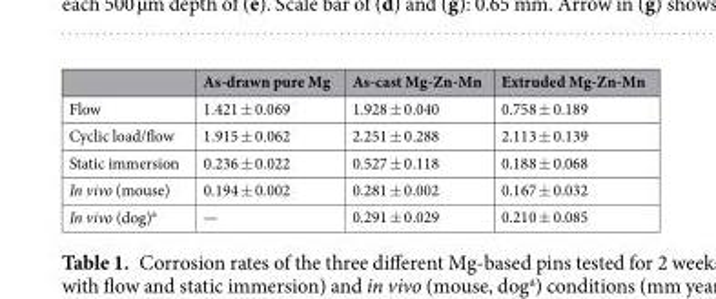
<table><thead><tr><td></td><td>As-drawn pure Mg</td><td>As-cast Mg-Zn-Mn</td><td>Extruded Mg-Zn-Mn</td></tr></thead><tbody><tr><td>Flow</td><td>1.421 ± 0.069</td><td>1.928 ± 0.040</td><td>0.758 ± 0.189</td></tr><tr><td>Cyclic load/flow</td><td>1.915 ± 0.062</td><td>2.251 ± 0.288</td><td>2.113 ± 0.139</td></tr><tr><td>Static immersion</td><td>0.236 ± 0.022</td><td>0.527 ± 0.118</td><td>0.188 ± 0.068</td></tr><tr><td>In vivo (mouse)</td><td>0.194 ± 0.002</td><td>0.281 ± 0.002</td><td>0.167 ± 0.032</td></tr><tr><td>In vivo (dog)<sup>a</sup></td><td>—</td><td>0.291 ± 0.029</td><td>0.210 ± 0.085</td></tr></tbody></table>